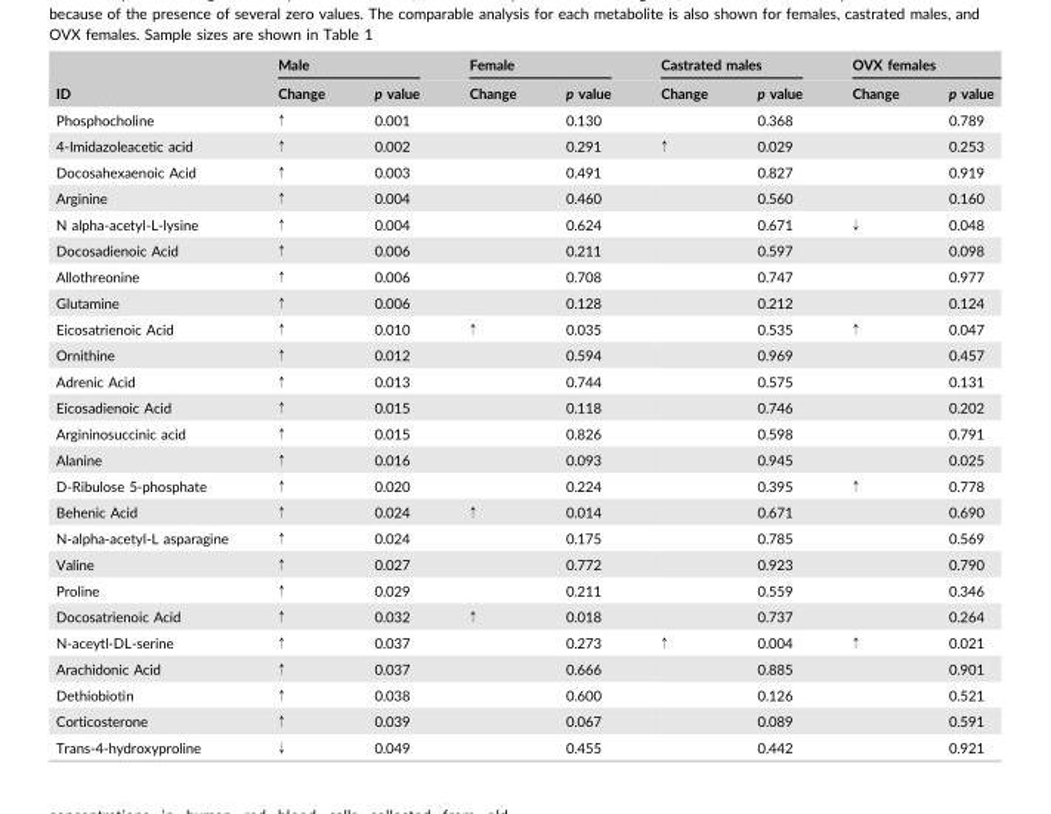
<table><thead><tr><td rowspan="2">ID</td><td colspan="2">Male</td><td colspan="2">Female</td><td colspan="2">Castrated males</td><td colspan="2">OVX females</td></tr><tr><td>Change</td><td>p value</td><td>Change</td><td>p value</td><td>Change</td><td>p value</td><td>Change</td><td>p value</td></tr></thead><tbody><tr><td>Phosphocholine</td><td>↑</td><td>0.001</td><td></td><td>0.130</td><td></td><td>0.368</td><td></td><td>0.789</td></tr><tr><td>4-Imidazoleacetic acid</td><td>↑</td><td>0.002</td><td></td><td>0.291</td><td>↑</td><td>0.029</td><td></td><td>0.253</td></tr><tr><td>Docosahexaenoic Acid</td><td>↑</td><td>0.003</td><td></td><td>0.491</td><td></td><td>0.827</td><td></td><td>0.919</td></tr><tr><td>Arginine</td><td>↑</td><td>0.004</td><td></td><td>0.460</td><td></td><td>0.560</td><td></td><td>0.160</td></tr><tr><td>N alpha-acetyl-L-lysine</td><td>↑</td><td>0.004</td><td></td><td>0.624</td><td></td><td>0.671</td><td>↓</td><td>0.048</td></tr><tr><td>Docosadienoic Acid</td><td>↑</td><td>0.006</td><td></td><td>0.211</td><td></td><td>0.597</td><td></td><td>0.098</td></tr><tr><td>Allothreonine</td><td>↑</td><td>0.006</td><td></td><td>0.708</td><td></td><td>0.747</td><td></td><td>0.977</td></tr><tr><td>Glutamine</td><td>↑</td><td>0.006</td><td></td><td>0.128</td><td></td><td>0.212</td><td></td><td>0.124</td></tr><tr><td>Eicosatrienoic Acid</td><td>↑</td><td>0.010</td><td>↑</td><td>0.035</td><td></td><td>0.535</td><td>↑</td><td>0.047</td></tr><tr><td>Ornithine</td><td>↑</td><td>0.012</td><td></td><td>0.594</td><td></td><td>0.969</td><td></td><td>0.457</td></tr><tr><td>Adrenic Acid</td><td>↑</td><td>0.013</td><td></td><td>0.744</td><td></td><td>0.575</td><td></td><td>0.131</td></tr><tr><td>Eicosadienoic Acid</td><td>↑</td><td>0.015</td><td></td><td>0.118</td><td></td><td>0.746</td><td></td><td>0.202</td></tr><tr><td>Argininosuccinic acid</td><td>↑</td><td>0.015</td><td></td><td>0.826</td><td></td><td>0.598</td><td></td><td>0.791</td></tr><tr><td>Alanine</td><td>↑</td><td>0.016</td><td></td><td>0.093</td><td></td><td>0.945</td><td></td><td>0.025</td></tr><tr><td>D-Ribulose 5-phosphate</td><td>↑</td><td>0.020</td><td></td><td>0.224</td><td></td><td>0.395</td><td>↑</td><td>0.778</td></tr><tr><td>Behenic Acid</td><td>↑</td><td>0.024</td><td>↑</td><td>0.014</td><td></td><td>0.671</td><td></td><td>0.690</td></tr><tr><td>N-alpha-acetyl-L asparagine</td><td>↑</td><td>0.024</td><td></td><td>0.175</td><td></td><td>0.785</td><td></td><td>0.569</td></tr><tr><td>Valine</td><td>↑</td><td>0.027</td><td></td><td>0.772</td><td></td><td>0.923</td><td></td><td>0.790</td></tr><tr><td>Proline</td><td>↑</td><td>0.029</td><td></td><td>0.211</td><td></td><td>0.559</td><td></td><td>0.346</td></tr><tr><td>Docosatrienoic Acid</td><td>↑</td><td>0.032</td><td>↑</td><td>0.018</td><td></td><td>0.737</td><td></td><td>0.264</td></tr><tr><td>N-aceytl-DL-serine</td><td>↑</td><td>0.037</td><td></td><td>0.273</td><td>↑</td><td>0.004</td><td>↑</td><td>0.021</td></tr><tr><td>Arachidonic Acid</td><td>↑</td><td>0.037</td><td></td><td>0.666</td><td></td><td>0.885</td><td></td><td>0.901</td></tr><tr><td>Dethiobiotin</td><td>↑</td><td>0.038</td><td></td><td>0.600</td><td></td><td>0.126</td><td></td><td>0.521</td></tr><tr><td>Corticosterone</td><td>↑</td><td>0.039</td><td></td><td>0.067</td><td></td><td>0.089</td><td></td><td>0.591</td></tr><tr><td>Trans-4-hydroxyproline</td><td>↓</td><td>0.049</td><td></td><td>0.455</td><td></td><td>0.442</td><td></td><td>0.921</td></tr></tbody></table>